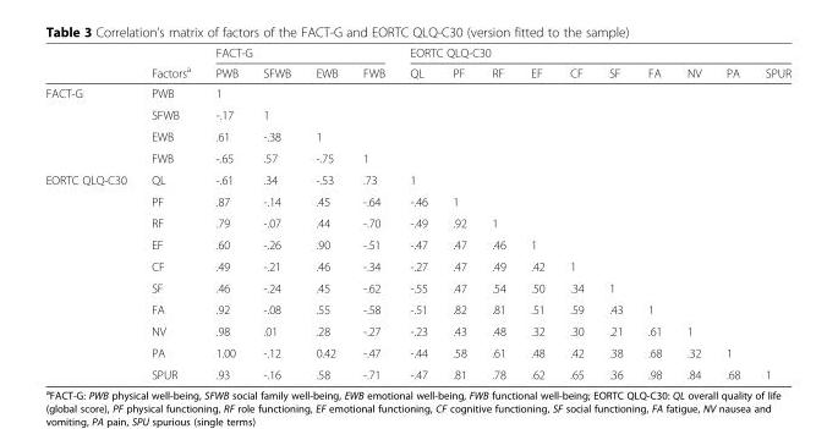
<table><thead><tr><td rowspan="2"></td><td rowspan="2">Factors<sup>a</sup></td><td colspan="4">FACT-G</td><td colspan="10">EORTC QLQ-C30</td></tr><tr><td>PWB</td><td>SFWB</td><td>EWB</td><td>FWB</td><td>QL</td><td>PF</td><td>RF</td><td>EF</td><td>CF</td><td>SF</td><td>FA</td><td>NV</td><td>PA</td><td>SPUR</td></tr></thead><tbody><tr><td rowspan="4">FACT-G</td><td>PWB</td><td>1</td><td></td><td></td><td></td><td></td><td></td><td></td><td></td><td></td><td></td><td></td><td></td><td></td><td></td></tr><tr><td>SFWB</td><td>-.17</td><td>1</td><td></td><td></td><td></td><td></td><td></td><td></td><td></td><td></td><td></td><td></td><td></td><td></td></tr><tr><td>EWB</td><td>.61</td><td>-.38</td><td>1</td><td></td><td></td><td></td><td></td><td></td><td></td><td></td><td></td><td></td><td></td><td></td></tr><tr><td>FWB</td><td>-.65</td><td>.57</td><td>-.75</td><td>1</td><td></td><td></td><td></td><td></td><td></td><td></td><td></td><td></td><td></td><td></td></tr><tr><td rowspan="10">EORTC QLQ-C30</td><td>QL</td><td>-.61</td><td>.34</td><td>-.53</td><td>.73</td><td>1</td><td></td><td></td><td></td><td></td><td></td><td></td><td></td><td></td><td></td></tr><tr><td>PF</td><td>.87</td><td>-.14</td><td>.45</td><td>-.64</td><td>-.46</td><td>1</td><td></td><td></td><td></td><td></td><td></td><td></td><td></td><td></td></tr><tr><td>RF</td><td>.79</td><td>-.07</td><td>.44</td><td>-.70</td><td>-.49</td><td>.92</td><td>1</td><td></td><td></td><td></td><td></td><td></td><td></td><td></td></tr><tr><td>EF</td><td>.60</td><td>-.26</td><td>.90</td><td>-.51</td><td>-.47</td><td>.47</td><td>.46</td><td>1</td><td></td><td></td><td></td><td></td><td></td><td></td></tr><tr><td>CF</td><td>.49</td><td>-.21</td><td>.46</td><td>-.34</td><td>-.27</td><td>.47</td><td>.49</td><td>.42</td><td>1</td><td></td><td></td><td></td><td></td><td></td></tr><tr><td>SF</td><td>.46</td><td>-.24</td><td>.45</td><td>-.62</td><td>-.55</td><td>.47</td><td>.54</td><td>.50</td><td>.34</td><td>1</td><td></td><td></td><td></td><td></td></tr><tr><td>FA</td><td>.92</td><td>-.08</td><td>.55</td><td>-.58</td><td>-.51</td><td>.82</td><td>.81</td><td>.51</td><td>.59</td><td>.43</td><td>1</td><td></td><td></td><td></td></tr><tr><td>NV</td><td>.98</td><td>.01</td><td>.28</td><td>-.27</td><td>-.23</td><td>.43</td><td>.48</td><td>.32</td><td>.30</td><td>.21</td><td>.61</td><td>1</td><td></td><td></td></tr><tr><td>PA</td><td>1.00</td><td>-.12</td><td>0.42</td><td>-.47</td><td>-.44</td><td>.58</td><td>.61</td><td>.48</td><td>.42</td><td>.38</td><td>.68</td><td>.32</td><td>1</td><td></td></tr><tr><td>SPUR</td><td>.93</td><td>-.16</td><td>.58</td><td>-.71</td><td>-.47</td><td>.81</td><td>.78</td><td>.62</td><td>.65</td><td>.36</td><td>.98</td><td>.84</td><td>.68</td><td>1</td></tr></tbody></table>